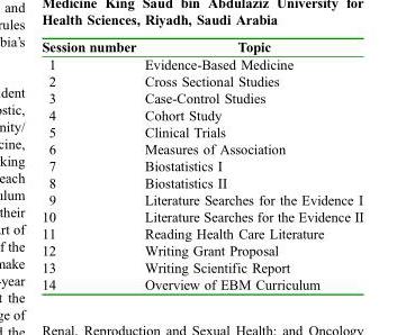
<table><thead><tr><td>Session number</td><td>Topic</td></tr></thead><tbody><tr><td>1</td><td>Evidence-Based Medicine</td></tr><tr><td>2</td><td>Cross Sectional Studies</td></tr><tr><td>3</td><td>Case-Control Studies</td></tr><tr><td>4</td><td>Cohort Study</td></tr><tr><td>5</td><td>Clinical Trials</td></tr><tr><td>6</td><td>Measures of Association</td></tr><tr><td>7</td><td>Biostatistics I</td></tr><tr><td>8</td><td>Biostatistics II</td></tr><tr><td>9</td><td>Literature Searches for the Evidence I</td></tr><tr><td>10</td><td>Literature Searches for the Evidence II</td></tr><tr><td>11</td><td>Reading Health Care Literature</td></tr><tr><td>12</td><td>Writing Grant Proposal</td></tr><tr><td>13</td><td>Writing Scientific Report</td></tr><tr><td>14</td><td>Overview of EBM Curriculum</td></tr></tbody></table>